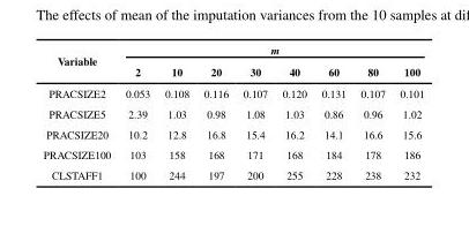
<table><thead><tr><td rowspan="2">Variable</td><td colspan="8">m</td></tr><tr><td>2</td><td>10</td><td>20</td><td>30</td><td>40</td><td>60</td><td>80</td><td>100</td></tr></thead><tbody><tr><td>PRACSIZE2</td><td>0.053</td><td>0.108</td><td>0.116</td><td>0.107</td><td>0.120</td><td>0.131</td><td>0.107</td><td>0.101</td></tr><tr><td>PRACSIZE5</td><td>2.39</td><td>1.03</td><td>0.98</td><td>1.08</td><td>1.03</td><td>0.86</td><td>0.96</td><td>1.02</td></tr><tr><td>PRACSIZE20</td><td>10.2</td><td>12.8</td><td>16.8</td><td>15.4</td><td>16.2</td><td>14.1</td><td>16.6</td><td>15.6</td></tr><tr><td>PRACSIZE100</td><td>103</td><td>158</td><td>168</td><td>171</td><td>168</td><td>184</td><td>178</td><td>186</td></tr><tr><td>CLSTAFF1</td><td>100</td><td>244</td><td>197</td><td>200</td><td>255</td><td>228</td><td>238</td><td>232</td></tr></tbody></table>